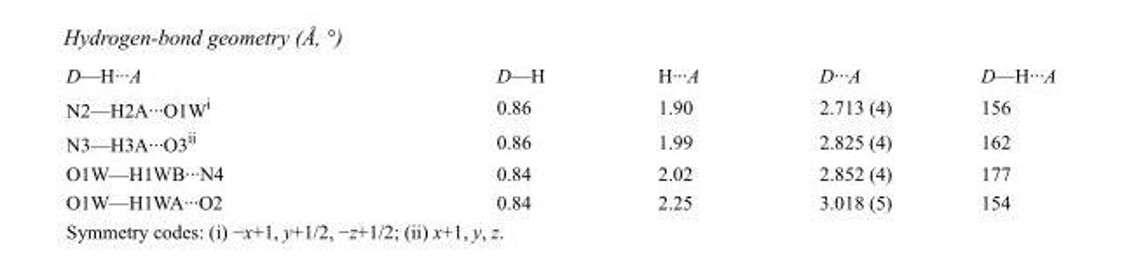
<table><tbody><tr><td>D—H···A</td><td>D—H</td><td>H···A</td><td>D···A</td><td>D—H···A</td></tr><tr><td>N2—H2A···O1W<sup>i</sup></td><td>0.86</td><td>1.90</td><td>2.713 (4)</td><td>156</td></tr><tr><td>N3—H3A···O3<sup>ii</sup></td><td>0.86</td><td>1.99</td><td>2.825 (4)</td><td>162</td></tr><tr><td>O1W—H1WB···N4</td><td>0.84</td><td>2.02</td><td>2.852 (4)</td><td>177</td></tr><tr><td>O1W—H1WA···O2</td><td>0.84</td><td>2.25</td><td>3.018 (5)</td><td>154</td></tr></tbody></table>